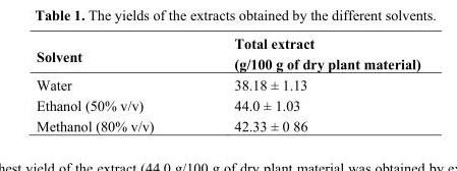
<table><thead><tr><td>Solvent</td><td>Total extract (g/100 g of dry plant material)</td></tr></thead><tbody><tr><td>Water</td><td>38.18 ± 1.13</td></tr><tr><td>Ethanol (50% v/v)</td><td>44.0 ± 1.03</td></tr><tr><td>Methanol (80% v/v)</td><td>42.33 ± 0 86</td></tr></tbody></table>